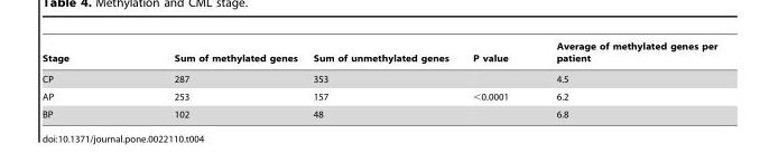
<table><thead><tr><td>Stage</td><td>Sum of methylated genes</td><td>Sum of unmethylated genes</td><td>P value</td><td>Average of methylated genes per patient</td></tr></thead><tbody><tr><td>CP</td><td>287</td><td>353</td><td></td><td>4.5</td></tr><tr><td>AP</td><td>253</td><td>157</td><td>&lt;0.0001</td><td>6.2</td></tr><tr><td>BP</td><td>102</td><td>48</td><td></td><td>6.8</td></tr></tbody></table>